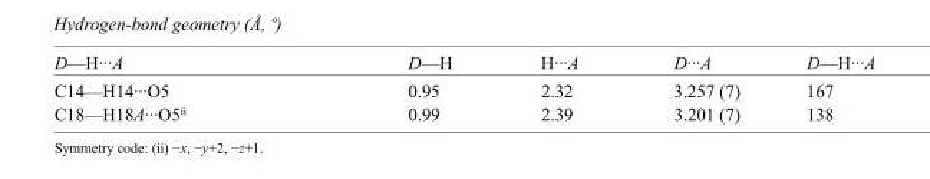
<table><tbody><tr><td>D—H···A</td><td>D—H</td><td>H···A</td><td>D···A</td><td>D—H···A</td></tr><tr><td>C14—H14···O5</td><td>0.95</td><td>2.32</td><td>3.257 (7)</td><td>167</td></tr><tr><td>C18—H18A···O5<sup>ii</sup></td><td>0.99</td><td>2.39</td><td>3.201 (7)</td><td>138</td></tr></tbody></table>